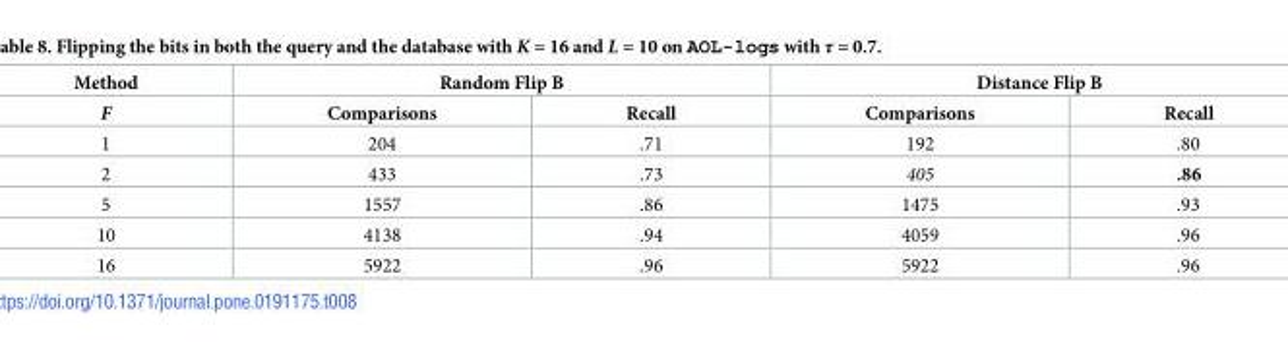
<table><thead><tr><td rowspan="2">Method F</td><td colspan="2">Random Flip B</td><td colspan="2">Distance Flip B</td></tr><tr><td>Comparisons</td><td>Recall</td><td>Comparisons</td><td>Recall</td></tr></thead><tbody><tr><td>1</td><td>204</td><td>.71</td><td>192</td><td>.80</td></tr><tr><td>2</td><td>433</td><td>.73</td><td>405</td><td>.86</td></tr><tr><td>5</td><td>1557</td><td>.86</td><td>1475</td><td>.93</td></tr><tr><td>10</td><td>4138</td><td>.94</td><td>4059</td><td>.96</td></tr><tr><td>16</td><td>5922</td><td>.96</td><td>5922</td><td>.96</td></tr></tbody></table>